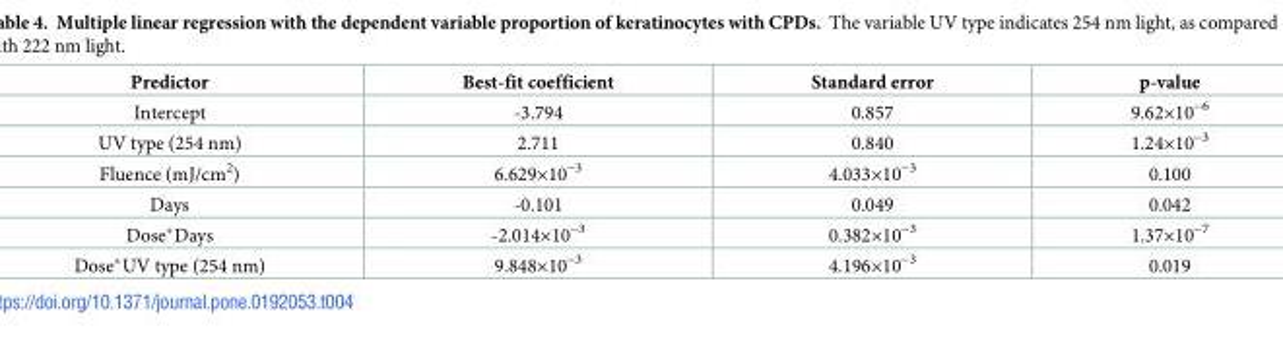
<table><thead><tr><td>Predictor</td><td>Best-fit coefficient</td><td>Standard error</td><td>p-value</td></tr></thead><tbody><tr><td>Intercept</td><td>-3.794</td><td>0.857</td><td>9.62×10<sup>−6</sup></td></tr><tr><td>UV type (254 nm)</td><td>2.711</td><td>0.840</td><td>1.24×10<sup>−3</sup></td></tr><tr><td>Fluence (mJ/cm<sup>2</sup>)</td><td>6.629×10<sup>−3</sup></td><td>4.033×10<sup>−3</sup></td><td>0.100</td></tr><tr><td>Days</td><td>-0.101</td><td>0.049</td><td>0.042</td></tr><tr><td>Dose*Days</td><td>-2.014×10<sup>−3</sup></td><td>0.382×10<sup>−3</sup></td><td>1.37×10<sup>−7</sup></td></tr><tr><td>Dose*UV type (254 nm)</td><td>9.848×10<sup>−3</sup></td><td>4.196×10<sup>−3</sup></td><td>0.019</td></tr></tbody></table>